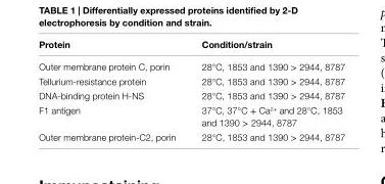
<table><thead><tr><td>Protein</td><td>condition/strain</td></tr></thead><tbody><tr><td>Outer membrane protein C, porin</td><td>28°C, 1853 and 1390 &gt; 2944, 8787</td></tr><tr><td>Tellurium-resistance protein</td><td>28°C, 1853 and 1390 &gt; 2944, 8787</td></tr><tr><td>DNA-binding protein H-NS</td><td>28°C, 1853 and 1390 &gt; 2944, 8787</td></tr><tr><td>F1 antigen</td><td>37°C, 37°C + Ca<sup>2+</sup> and 28°C, 1853 and 1390 &gt; 2944, 8787</td></tr><tr><td>Outer membrane protein-C2, porin</td><td>28°C, 1853 and 1390 &gt; 2944, 8787</td></tr></tbody></table>